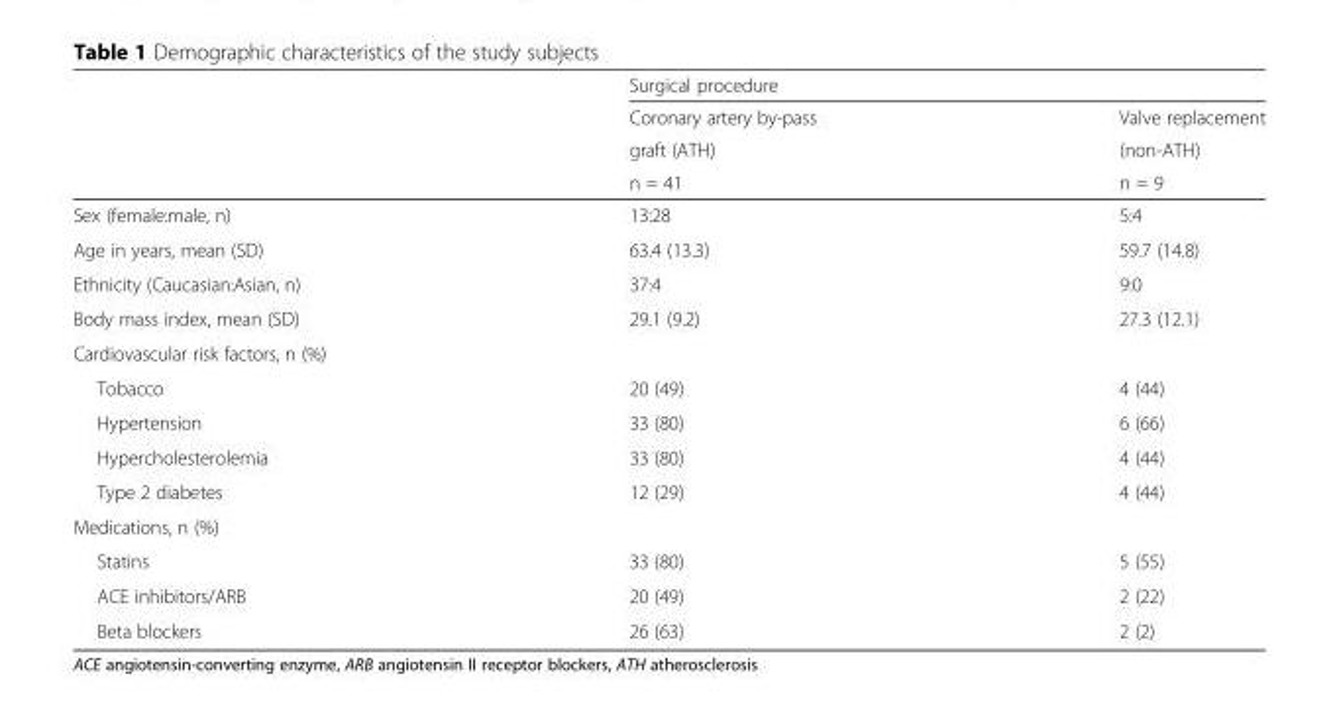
<table><thead><tr><td rowspan="4"></td><td colspan="2">Surgical procedure</td></tr><tr><td rowspan="3">Coronary artery by-pass graft (ATH) n = 41</td><td rowspan="3">Valve replacement (non-ATH) n = 9</td></tr><tr></tr><tr></tr></thead><tbody><tr><td>Sex (female:male, n)</td><td>13:28</td><td>5:4</td></tr><tr><td>Age in years, mean (SD)</td><td>63.4 (13.3)</td><td>59.7 (14.8)</td></tr><tr><td>Ethnicity (Caucasian:Asian, n)</td><td>37:4</td><td>9:0</td></tr><tr><td>Body mass index, mean (SD)</td><td>29.1 (9.2)</td><td>27.3 (12.1)</td></tr><tr><td colspan="3">Cardiovascular risk factors, n (%)</td></tr><tr><td>Tobacco</td><td>20 (49)</td><td>4 (44)</td></tr><tr><td>Hypertension</td><td>33 (80)</td><td>6 (66)</td></tr><tr><td>Hypercholesterolemia</td><td>33 (80)</td><td>4 (44)</td></tr><tr><td>Type 2 diabetes</td><td>12 (29)</td><td>4 (44)</td></tr><tr><td colspan="3">Medications, n (%)</td></tr><tr><td>Statins</td><td>33 (80)</td><td>5 (55)</td></tr><tr><td>ACE inhibitors/ARB</td><td>20 (49)</td><td>2 (22)</td></tr><tr><td>Beta blockers</td><td>26 (63)</td><td>2 (2)</td></tr></tbody></table>